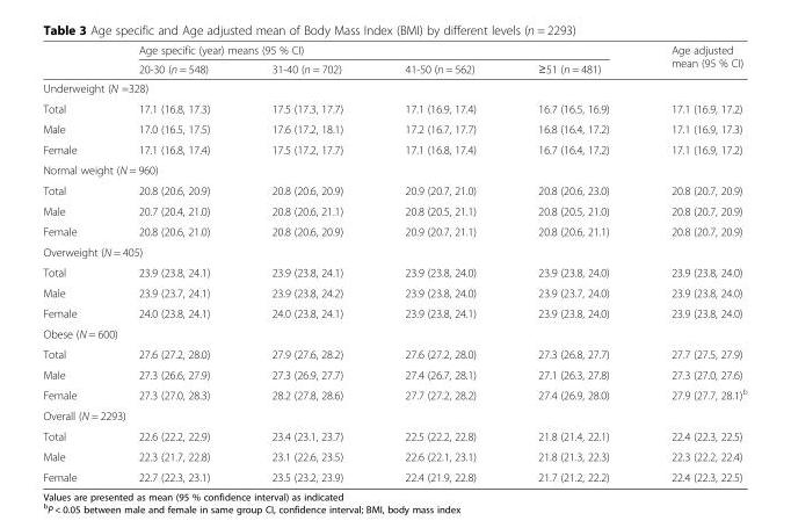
<table><thead><tr><td rowspan="2"></td><td colspan="4">Age specific (year) means (95 % CI)</td><td rowspan="2">Age adjusted mean (95 % CI)</td></tr><tr><td>20-30 (n = 548)</td><td>31-40 (n = 702)</td><td>41-50 (n = 562)</td><td>≥51 (n = 481)</td></tr></thead><tbody><tr><td colspan="6">Underweight (N =328)</td></tr><tr><td>Total</td><td>17.1 (16.8, 17.3)</td><td>17.5 (17.3, 17.7)</td><td>17.1 (16.9, 17.4)</td><td>16.7 (16.5, 16.9)</td><td>17.1 (16.9, 17.2)</td></tr><tr><td>Male</td><td>17.0 (16.5, 17.5)</td><td>17.6 (17.2, 18.1)</td><td>17.2 (16.7, 17.7)</td><td>16.8 (16.4, 17.2)</td><td>17.1 (16.9, 17.3)</td></tr><tr><td>Female</td><td>17.1 (16.8, 17.4)</td><td>17.5 (17.2, 17.7)</td><td>17.1 (16.8, 17.4)</td><td>16.7 (16.4, 17.2)</td><td>17.1 (16.9, 17.2)</td></tr><tr><td colspan="6">Normal weight (N = 960)</td></tr><tr><td>Total</td><td>20.8 (20.6, 20.9)</td><td>20.8 (20.6, 20.9)</td><td>20.9 (20.7, 21.0)</td><td>20.8 (20.6, 23.0)</td><td>20.8 (20.7, 20.9)</td></tr><tr><td>Male</td><td>20.7 (20.4, 21.0)</td><td>20.8 (20.6, 21.1)</td><td>20.8 (20.5, 21.1)</td><td>20.8 (20.5, 21.0)</td><td>20.8 (20.7, 20.9)</td></tr><tr><td>Female</td><td>20.8 (20.6, 21.0)</td><td>20.8 (20.6, 20.9)</td><td>20.9 (20.7, 21.1)</td><td>20.8 (20.6, 21.1)</td><td>20.8 (20.7, 20.9)</td></tr><tr><td colspan="6">Overweight (N = 405)</td></tr><tr><td>Total</td><td>23.9 (23.8, 24.1)</td><td>23.9 (23.8, 24.1)</td><td>23.9 (23.8, 24.0)</td><td>23.9 (23.8, 24.0)</td><td>23.9 (23.8, 24.0)</td></tr><tr><td>Male</td><td>23.9 (23.7, 24.1)</td><td>23.9 (23.8, 24.2)</td><td>23.9 (23.8, 24.0)</td><td>23.9 (23.7, 24.0)</td><td>23.9 (23.8, 24.0)</td></tr><tr><td>Female</td><td>24.0 (23.8, 24.1)</td><td>24.0 (23.8, 24.1)</td><td>23.9 (23.8, 24.1)</td><td>23.9 (23.8, 24.0)</td><td>23.9 (23.8, 24.0)</td></tr><tr><td colspan="6">Obese (N = 600)</td></tr><tr><td>Total</td><td>27.6 (27.2, 28.0)</td><td>27.9 (27.6, 28.2)</td><td>27.6 (27.2, 28.0)</td><td>27.3 (26.8, 27.7)</td><td>27.7 (27.5, 27.9)</td></tr><tr><td>Male</td><td>27.3 (26.6, 27.9)</td><td>27.3 (26.9, 27.7)</td><td>27.4 (26.7, 28.1)</td><td>27.1 (26.3, 27.8)</td><td>27.3 (27.0, 27.6)</td></tr><tr><td>Female</td><td>27.3 (27.0, 28.3)</td><td>28.2 (27.8, 28.6)</td><td>27.7 (27.2, 28.2)</td><td>27.4 (26.9, 28.0)</td><td>27.9 (27.7, 28.1)<sup>b</sup></td></tr><tr><td colspan="6">Overall (N = 2293)</td></tr><tr><td>Total</td><td>22.6 (22.2, 22.9)</td><td>23.4 (23.1, 23.7)</td><td>22.5 (22.2, 22.8)</td><td>21.8 (21.4, 22.1)</td><td>22.4 (22.3, 22.5)</td></tr><tr><td>Male</td><td>22.3 (21.7, 22.8)</td><td>23.1 (22.6, 23.5)</td><td>22.6 (22.1, 23.1)</td><td>21.8 (21.3, 22.3)</td><td>22.3 (22.2, 22.4)</td></tr><tr><td>Female</td><td>22.7 (22.3, 23.1)</td><td>23.5 (23.2, 23.9)</td><td>22.4 (21.9, 22.8)</td><td>21.7 (21.2, 22.2)</td><td>22.4 (22.3, 22.5)</td></tr></tbody></table>